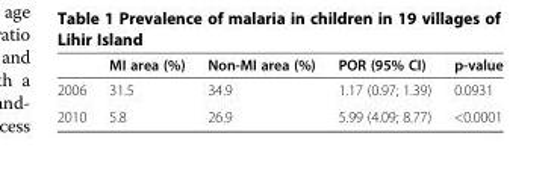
<table><thead><tr><td></td><td>MI area (%)</td><td>Non-MI area (%)</td><td>POR (95% CI)</td><td>p-value</td></tr></thead><tbody><tr><td>2006</td><td>31.5</td><td>34.9</td><td>1.17 (0.97; 1.39)</td><td>0.0931</td></tr><tr><td>2010</td><td>5.8</td><td>26.9</td><td>5.99 (4.09; 8.77)</td><td>&lt;0.0001</td></tr></tbody></table>